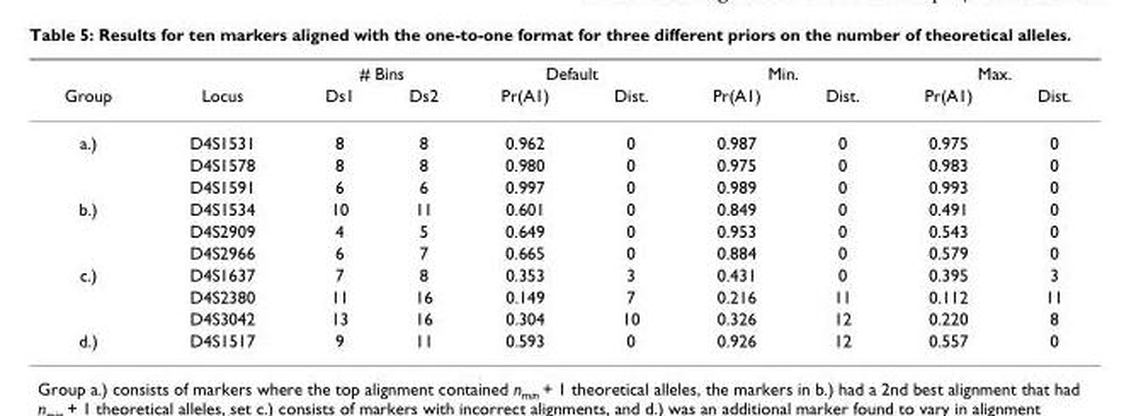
<table><thead><tr><td rowspan="2">Group</td><td rowspan="2">Locus</td><td colspan="2"># Bins</td><td colspan="2">Default</td><td colspan="2">Min.</td><td colspan="2">Max.</td></tr><tr><td>Ds1</td><td>Ds2</td><td>Pr(A1)</td><td>Dist.</td><td>Pr(A1)</td><td>Dist.</td><td>Pr(A1)</td><td>Dist.</td></tr></thead><tbody><tr><td rowspan="3">a.)</td><td>D4S1531</td><td>8</td><td>8</td><td>0.962</td><td>0</td><td>0.987</td><td>0</td><td>0.975</td><td>0</td></tr><tr><td>D4S1578</td><td>8</td><td>8</td><td>0.980</td><td>0</td><td>0.975</td><td>0</td><td>0.983</td><td>0</td></tr><tr><td>D4S1591</td><td>6</td><td>6</td><td>0.997</td><td>0</td><td>0.989</td><td>0</td><td>0.993</td><td>0</td></tr><tr><td rowspan="3">b.)</td><td>D4S1534</td><td>10</td><td>11</td><td>0.601</td><td>0</td><td>0.849</td><td>0</td><td>0.491</td><td>0</td></tr><tr><td>D4S2909</td><td>4</td><td>5</td><td>0.649</td><td>0</td><td>0.953</td><td>0</td><td>0.543</td><td>0</td></tr><tr><td>D4S2966</td><td>6</td><td>7</td><td>0.665</td><td>0</td><td>0.884</td><td>0</td><td>0.579</td><td>0</td></tr><tr><td rowspan="3">c.)</td><td>D4S1637</td><td>7</td><td>8</td><td>0.353</td><td>3</td><td>0.431</td><td>0</td><td>0.395</td><td>3</td></tr><tr><td>D4S2380</td><td>11</td><td>16</td><td>0.149</td><td>7</td><td>0.216</td><td>11</td><td>0.112</td><td>11</td></tr><tr><td>D4S3042</td><td>13</td><td>16</td><td>0.304</td><td>10</td><td>0.326</td><td>12</td><td>0.220</td><td>8</td></tr><tr><td>d.)</td><td>D4S1517</td><td>9</td><td>11</td><td>0.593</td><td>0</td><td>0.926</td><td>12</td><td>0.557</td><td>0</td></tr></tbody></table>